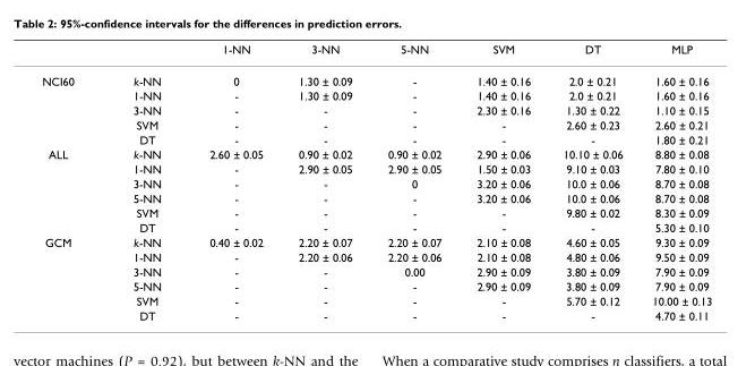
<table><thead><tr><td></td><td></td><td>1-NN</td><td>3-NN</td><td>5-NN</td><td>SVM</td><td>DT</td><td>MLP</td></tr></thead><tbody><tr><td rowspan="5">NCI60</td><td>k-NN</td><td>0</td><td>1.30 ± 0.09</td><td>-</td><td>1.40 ± 0.16</td><td>2.0 ± 0.21</td><td>1.60 ± 0.16</td></tr><tr><td>1-NN</td><td>-</td><td>1.30 ± 0.09</td><td>-</td><td>1.40 ± 0.16</td><td>2.0 ± 0.21</td><td>1.60 ± 0.16</td></tr><tr><td>3-NN</td><td>-</td><td>-</td><td>-</td><td>2.30 ± 0.16</td><td>1.30 ± 0.22</td><td>1.10 ± 0.15</td></tr><tr><td>SVM</td><td>-</td><td>-</td><td>-</td><td>-</td><td>2.60 ± 0.23</td><td>2.60 ± 0.21</td></tr><tr><td>DT</td><td>-</td><td>-</td><td>-</td><td>-</td><td>-</td><td>1.80 ± 0.21</td></tr><tr><td rowspan="6">ALL</td><td>k-NN</td><td>2.60 ± 0.05</td><td>0.90 ± 0.02</td><td>0.90 ± 0.02</td><td>2.90 ± 0.06</td><td>10.10 ± 0.06</td><td>8.80 ± 0.08</td></tr><tr><td>1-NN</td><td>-</td><td>2.90 ± 0.05</td><td>2.90 ± 0.05</td><td>1.50 ± 0.03</td><td>9.10 ± 0.03</td><td>7.80 ± 0.10</td></tr><tr><td>3-NN</td><td>-</td><td>-</td><td>0</td><td>3.20 ± 0.06</td><td>10.0 ± 0.06</td><td>8.70 ± 0.08</td></tr><tr><td>5-NN</td><td>-</td><td>-</td><td>-</td><td>3.20 ± 0.06</td><td>10.0 ± 0.06</td><td>8.70 ± 0.08</td></tr><tr><td>SVM</td><td>-</td><td>-</td><td>-</td><td>-</td><td>9.80 ± 0.02</td><td>8.30 ± 0.09</td></tr><tr><td>DT</td><td>-</td><td>-</td><td>-</td><td>-</td><td>-</td><td>5.30 ± 0.10</td></tr><tr><td rowspan="6">GCM</td><td>k-NN</td><td>0.40 ± 0.02</td><td>2.20 ± 0.07</td><td>2.20 ± 0.07</td><td>2.10 ± 0.08</td><td>4.60 ± 0.05</td><td>9.30 ± 0.09</td></tr><tr><td>1-NN</td><td>-</td><td>2.20 ± 0.06</td><td>2.20 ± 0.06</td><td>2.10 ± 0.08</td><td>4.80 ± 0.06</td><td>9.50 ± 0.09</td></tr><tr><td>3-NN</td><td>-</td><td>-</td><td>0.00</td><td>2.90 ± 0.09</td><td>3.80 ± 0.09</td><td>7.90 ± 0.09</td></tr><tr><td>5-NN</td><td>-</td><td>-</td><td>-</td><td>2.90 ± 0.09</td><td>3.80 ± 0.09</td><td>7.90 ± 0.09</td></tr><tr><td>SVM</td><td>-</td><td>-</td><td>-</td><td>-</td><td>5.70 ± 0.12</td><td>10.00 ± 0.13</td></tr><tr><td>DT</td><td>-</td><td>-</td><td>-</td><td>-</td><td>-</td><td>4.70 ± 0.11</td></tr></tbody></table>